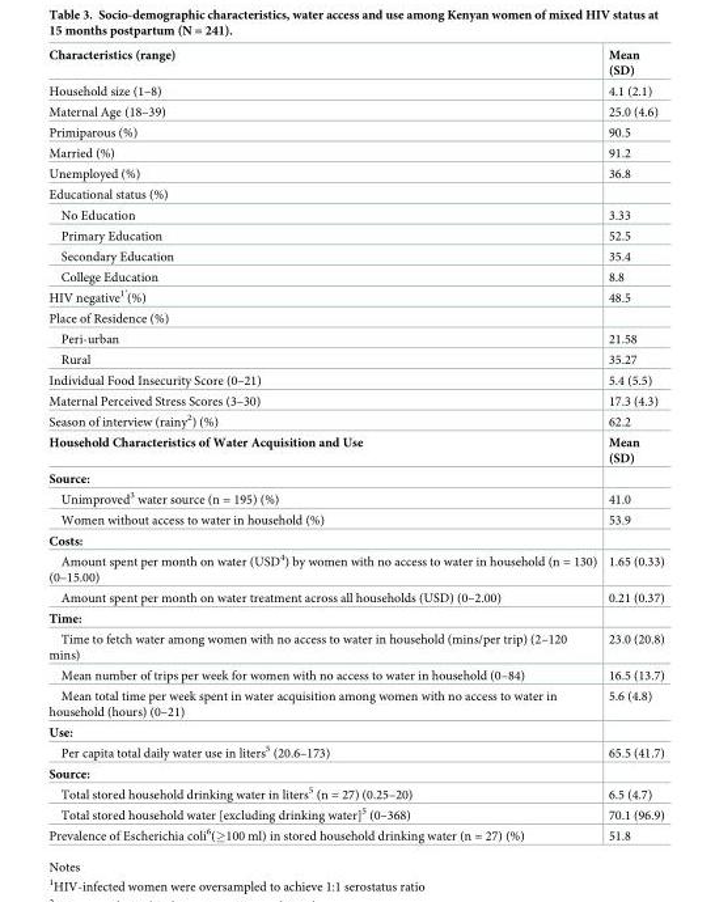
<table><tbody><tr><td>Characteristics (range)</td><td>Mean (SD)</td></tr><tr><td>Household size (1–8)</td><td>4.1 (2.1)</td></tr><tr><td>Maternal Age (18–39)</td><td>25.0 (4.6)</td></tr><tr><td>Primiparous (%)</td><td>90.5</td></tr><tr><td>Married (%)</td><td>91.2</td></tr><tr><td>Unemployed (%)</td><td>36.8</td></tr><tr><td colspan="2">Educational status (%)</td></tr><tr><td>No Education</td><td>3.33</td></tr><tr><td>Primary Education</td><td>52.5</td></tr><tr><td>Secondary Education</td><td>35.4</td></tr><tr><td>College Education</td><td>8.8</td></tr><tr><td>HIV negative1‘(%)</td><td>48.5</td></tr><tr><td colspan="2">Place of Residence (%)</td></tr><tr><td>Peri-urban</td><td>21.58</td></tr><tr><td>Rural</td><td>35.27</td></tr><tr><td>Individual Food Insecurity Score (0–21)</td><td>5.4 (5.5)</td></tr><tr><td>Maternal Perceived Stress Scores (3–30)</td><td>17.3 (4.3)</td></tr><tr><td>Season of interview (rainy<sup>2</sup>) (%)</td><td>62.2</td></tr><tr><td>Household Characteristics of Water Acquisition and Use</td><td>Mean (SD)</td></tr><tr><td colspan="2">Source:</td></tr><tr><td>Unimproved<sup>3</sup> water source (n = 195) (%)</td><td>41.0</td></tr><tr><td>Women without access to water in household (%)</td><td>53.9</td></tr><tr><td colspan="2">Costs:</td></tr><tr><td>Amount spent per month on water (USD<sup>4</sup>) by women with no access to water in household (n = 130) (0–15.00)</td><td>1.65 (0.33)</td></tr><tr><td>Amount spent per month on water treatment across all households (USD) (0–2.00)</td><td>0.21 (0.37)</td></tr><tr><td colspan="2">Time:</td></tr><tr><td>Time to fetch water among women with no access to water in household (mins/per trip) (2–120 mins)</td><td>23.0 (20.8)</td></tr><tr><td>Mean number of trips per week for women with no access to water in household (0–84)</td><td>16.5 (13.7)</td></tr><tr><td>Mean total time per week spent in water acquisition among women with no access to water in household (hours) (0–21)</td><td>5.6 (4.8)</td></tr><tr><td colspan="2">Use:</td></tr><tr><td>Per capita total daily water use in liters<sup>5</sup> (20.6–173)</td><td>65.5 (41.7)</td></tr><tr><td colspan="2">Source:</td></tr><tr><td>Total stored household drinking water in liters<sup>5</sup> (n = 27) (0.25–20)</td><td>6.5 (4.7)</td></tr><tr><td>Total stored household water [excluding drinking water]<sup>5</sup> (0–368)</td><td>70.1 (96.9)</td></tr><tr><td>Prevalence of Escherichia coli<sup>6</sup>(≥100 ml) in stored household drinking water (n = 27) (%)</td><td>51.8</td></tr></tbody></table>